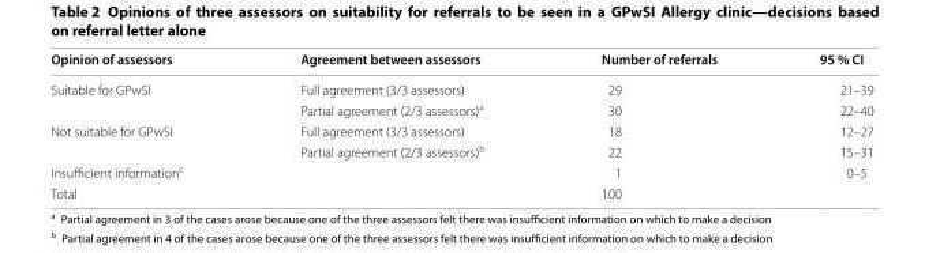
<table><thead><tr><td>Opinion of assessors</td><td>Agreement between assessors</td><td>Number of referrals</td><td>95 % CI</td></tr></thead><tbody><tr><td rowspan="2">Suitable for GPwSI</td><td>Full agreement (3/3 assessors)</td><td>29</td><td>21–39</td></tr><tr><td>Partial agreement (2/3 assessors)<sup>a</sup></td><td>30</td><td>22–40</td></tr><tr><td rowspan="2">Not suitable for GPwSI</td><td>Full agreement (3/3 assessors)</td><td>18</td><td>12–27</td></tr><tr><td>Partial agreement (2/3 assessors)<sup>b</sup></td><td>22</td><td>15–31</td></tr><tr><td>Insufficient information<sup>c</sup></td><td></td><td>1</td><td>0–5</td></tr><tr><td>Total</td><td></td><td>100</td><td></td></tr></tbody></table>